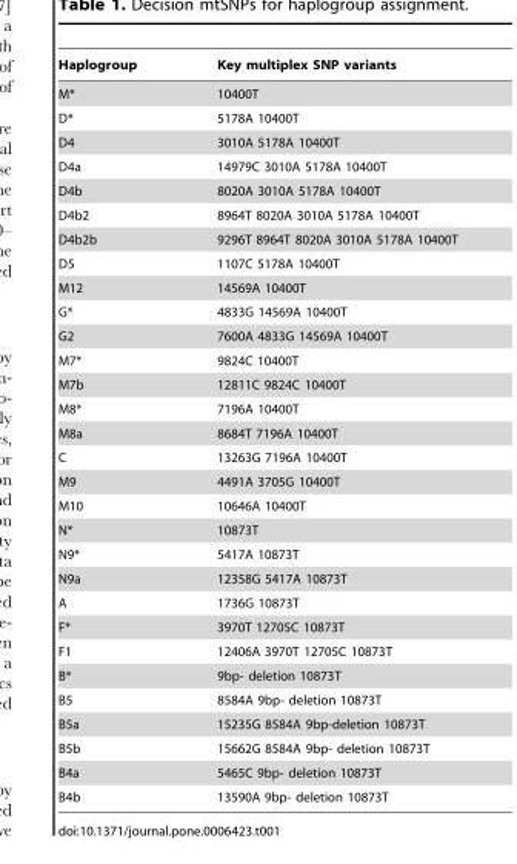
<table><thead><tr><td>Haplogroup</td><td>Key multiplex SNP variants</td></tr></thead><tbody><tr><td>M*</td><td>10400T</td></tr><tr><td>D*</td><td>5178A 10400T</td></tr><tr><td>D4</td><td>3010A 5178A 10400T</td></tr><tr><td>D4a</td><td>14979C 3010A 5178A 10400T</td></tr><tr><td>D4b</td><td>8020A 3010A 5178A 10400T</td></tr><tr><td>D4b2</td><td>8964T 8020A 3010A 5178A 10400T</td></tr><tr><td>D4b2b</td><td>9296T 8964T 8020A 3010A 5178A 10400T</td></tr><tr><td>D5</td><td>1107C 5178A 10400T</td></tr><tr><td>M12</td><td>14569A 10400T</td></tr><tr><td>G*</td><td>4833G 14569A 10400T</td></tr><tr><td>G2</td><td>7600A 4833G 14569A 10400T</td></tr><tr><td>M7*</td><td>9824C 10400T</td></tr><tr><td>M7b</td><td>12811C 9824C 10400T</td></tr><tr><td>M8*</td><td>7196A 10400T</td></tr><tr><td>M8a</td><td>8684T 7196A 10400T</td></tr><tr><td>C</td><td>13263G 7196A 10400T</td></tr><tr><td>M9</td><td>4491A 3705G 10400T</td></tr><tr><td>M10</td><td>10646A 10400T</td></tr><tr><td>N*</td><td>10873T</td></tr><tr><td>N9*</td><td>5417A 10873T</td></tr><tr><td>N9a</td><td>12358G 5417A 10873T</td></tr><tr><td>A</td><td>1736G 10873T</td></tr><tr><td>F*</td><td>3970T 12705C 10873T</td></tr><tr><td>F1</td><td>12406A 3970T 12705C 10873T</td></tr><tr><td>B*</td><td>9bp- deletion 10873T</td></tr><tr><td>B5</td><td>8584A 9bp- deletion 10873T</td></tr><tr><td>B5a</td><td>15235G 8584A 9bp-deletion 10873T</td></tr><tr><td>B5b</td><td>15662G 8584A 9bp- deletion 10873T</td></tr><tr><td>B4a</td><td>5465C 9bp- deletion 10873T</td></tr><tr><td>B4b</td><td>13590A 9bp- deletion 10873T</td></tr></tbody></table>